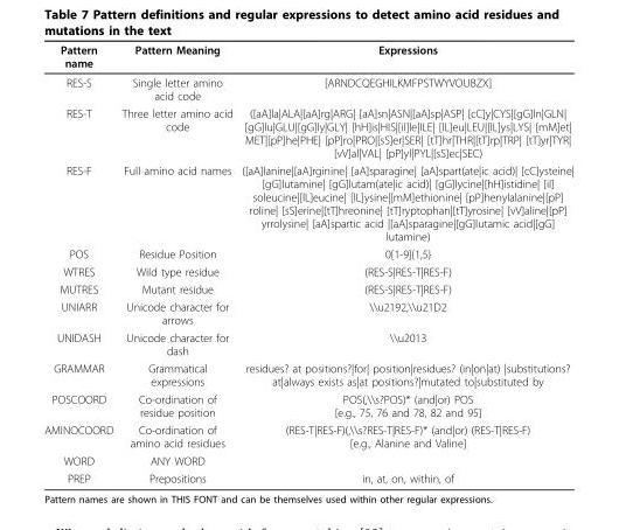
<table><thead><tr><td>Pattern name</td><td>Pattern Meaning</td><td>Expressions</td></tr></thead><tbody><tr><td>RES-S</td><td>Single letter amino acid code</td><td>[ARNDCQEGHILKMFPSTWYVOUBZX]</td></tr><tr><td>RES-T</td><td>Three letter amino acid code</td><td>([aA]la|ALA|[aA]rg|ARG| [aA]sn|ASN|[aA]sp|ASP| [cC]y|CYS|[gG]ln|GLN| [gG]lu|GLU|[gG]ly|GLY| [hH]is|HIS|[iI]le|ILE| [lL]eu|LEU|[lL]ys|LYS| [mM]et| MET|[pP]he|PHE| [pP]ro|PRO|[sS]er|SER| [tT]hr|THR|[tT]rp|TRP| [tT]yr|TYR| [vV]al|VAL| [pP]yl|PYL|[sS]ec|SEC)</td></tr><tr><td>RES-F</td><td>Full amino acid names</td><td>([aA]lanine|[aA]rginine| [aA]sparagine| [aA]spart(ate|ic acid)| [cC]ysteine| [gG]lutamine| [gG]lutam(ate|ic acid)| [gG]lycine|[hH]istidine| [iI] soleucine|[lL]eucine| [lL]ysine|[mM]ethionine| [pP]henylalanine|[pP] roline| [sS]erine|[tT]hreonine| [tT]ryptophan|[tT]yrosine| [vV]aline|[pP] yrrolysine| [aA]spartic acid |[aA]sparagine|[gG]lutamic acid|[gG] lutamine)</td></tr><tr><td>POS</td><td>Residue Position</td><td>0[1-9]{1,5}</td></tr><tr><td>WTRES</td><td>Wild type residue</td><td>(RES-S|RES-T|RES-F)</td></tr><tr><td>MUTRES</td><td>Mutant residue</td><td>(RES-S|RES-T|RES-F)</td></tr><tr><td>UNIARR</td><td>Unicode character for arrows</td><td>\\u2192,\\u21D2</td></tr><tr><td>UNIDASH</td><td>Unicode character for dash</td><td>\\u2013</td></tr><tr><td>GRAMMAR</td><td>Grammatical expressions</td><td>residues? at positions?|for| position|residues? (in|on|at) |substitutions? at|always exists as|at positions?|mutated to|substituted by</td></tr><tr><td>POSCOORD</td><td>Co-ordination of residue position</td><td>POS(,\\s?POS)* (and|or) POS [e.g., 75, 76 and 78, 82 and 95]</td></tr><tr><td>AMINOCOORD</td><td>Co-ordination of amino acid residues</td><td>(RES-T|RES-F)(,\\s?RES-T|RES-F)* (and|or) (RES-T|RES-F) [e.g., Alanine and Valine]</td></tr><tr><td>WORD</td><td>ANY WORD</td><td></td></tr><tr><td>PREP</td><td>Prepositions</td><td>in, at, on, within, of</td></tr></tbody></table>